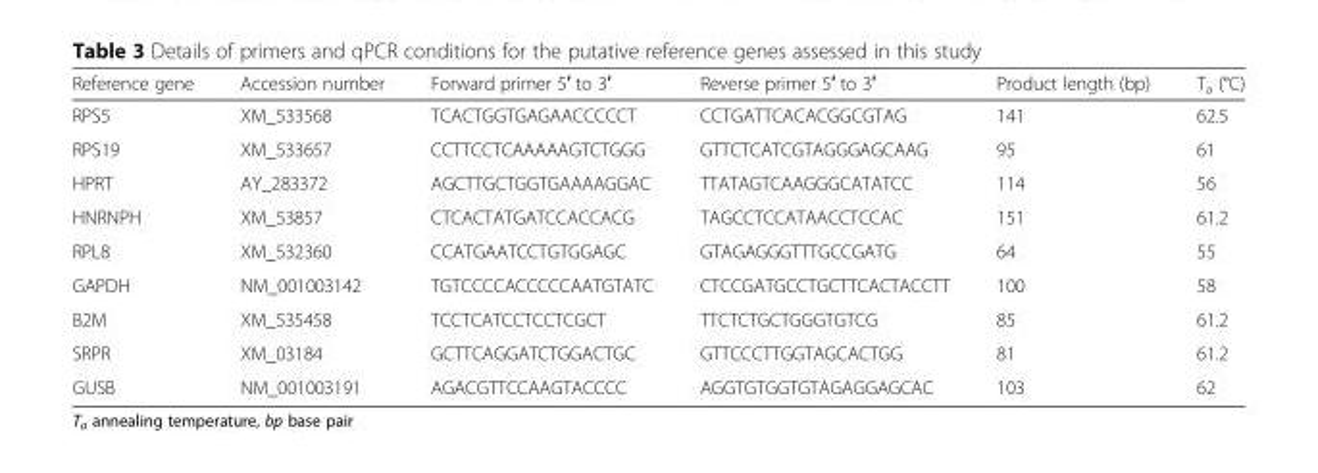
<table><thead><tr><td>Reference gene</td><td>Accession number</td><td>Forward primer 5′ to 3′</td><td>Reverse primer 5′ to 3′</td><td>Product length (bp)</td><td>T<sub>a</sub> (°C)</td></tr></thead><tbody><tr><td>RPS5</td><td>XM_533568</td><td>TCACTGGTGAGAACCCCCT</td><td>CCTGATTCACACGGCGTAG</td><td>141</td><td>62.5</td></tr><tr><td>RPS19</td><td>XM_533657</td><td>CCTTCCTCAAAAAGTCTGGG</td><td>GTTCTCATCGTAGGGAGCAAG</td><td>95</td><td>61</td></tr><tr><td>HPRT</td><td>AY_283372</td><td>AGCTTGCTGGTGAAAAGGAC</td><td>TTATAGTCAAGGGCATATCC</td><td>114</td><td>56</td></tr><tr><td>HNRNPH</td><td>XM_53857</td><td>CTCACTATGATCCACCACG</td><td>TAGCCTCCATAACCTCCAC</td><td>151</td><td>61.2</td></tr><tr><td>RPL8</td><td>XM_532360</td><td>CCATGAATCCTGTGGAGC</td><td>GTAGAGGGTTTGCCGATG</td><td>64</td><td>55</td></tr><tr><td>GAPDH</td><td>NM_001003142</td><td>TGTCCCCACCCCCAATGTATC</td><td>CTCCGATGCCTGCTTCACTACCTT</td><td>100</td><td>58</td></tr><tr><td>B2M</td><td>XM_535458</td><td>TCCTCATCCTCCTCGCT</td><td>TTCTCTGCTGGGTGTCG</td><td>85</td><td>61.2</td></tr><tr><td>SRPR</td><td>XM_03184</td><td>GCTTCAGGATCTGGACTGC</td><td>GTTCCCTTGGTAGCACTGG</td><td>81</td><td>61.2</td></tr><tr><td>GUSB</td><td>NM_001003191</td><td>AGACGTTCCAAGTACCCC</td><td>AGGTGTGGTGTAGAGGAGCAC</td><td>103</td><td>62</td></tr></tbody></table>